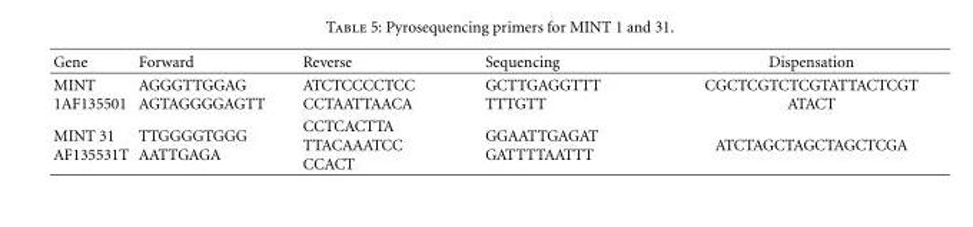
<table><thead><tr><td>Gene</td><td>Forward</td><td>Reverse</td><td>Sequencing</td><td>Dispensation</td></tr></thead><tbody><tr><td>MINT 1AF135501</td><td>AGGGTTGGAG AGTAGGGGAGTT</td><td>ATCTCCCCTCC CCTAATTAACA</td><td>GCTTGAGGTTT TTTGTT</td><td>CGCTCGTCTCGTATTACTCGT ATACT</td></tr><tr><td>MINT 31 AF135531T</td><td>TTGGGGTGGG AATTGAGA</td><td>CCTCACTTA TTACAAATCC CCACT</td><td>GGAATTGAGAT GATTTTAATTT</td><td>ATCTAGCTAGCTAGCTCGA</td></tr></tbody></table>